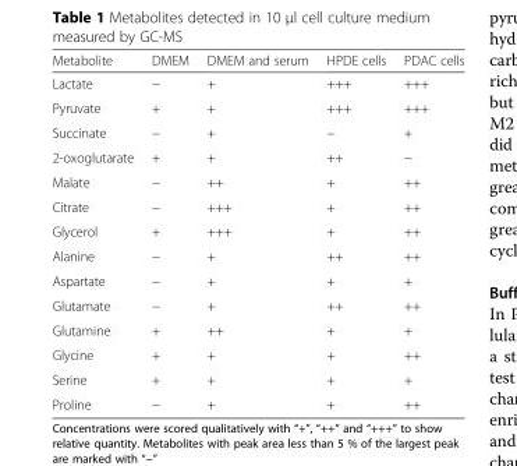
<table><thead><tr><td>Metabolite</td><td>DMEM</td><td>DMEM and serum</td><td>HPDE cells</td><td>PDAC cells</td></tr></thead><tbody><tr><td>Lactate</td><td>−</td><td>+</td><td>+++</td><td>+++</td></tr><tr><td>Pyruvate</td><td>+</td><td>+</td><td>+++</td><td>+++</td></tr><tr><td>Succinate</td><td>−</td><td>+</td><td>−</td><td>+</td></tr><tr><td>2-oxoglutarate</td><td>+</td><td>+</td><td>++</td><td>−</td></tr><tr><td>Malate</td><td>−</td><td>++</td><td>+</td><td>++</td></tr><tr><td>Citrate</td><td>−</td><td>+++</td><td>+</td><td>++</td></tr><tr><td>Glycerol</td><td>+</td><td>+++</td><td>+</td><td>++</td></tr><tr><td>Alanine</td><td>−</td><td>+</td><td>++</td><td>++</td></tr><tr><td>Aspartate</td><td>−</td><td>+</td><td>+</td><td>+</td></tr><tr><td>Glutamate</td><td>−</td><td>+</td><td>++</td><td>++</td></tr><tr><td>Glutamine</td><td>+</td><td>++</td><td>+</td><td>+</td></tr><tr><td>Glycine</td><td>+</td><td>+</td><td>+</td><td>++</td></tr><tr><td>Serine</td><td>+</td><td>+</td><td>+</td><td>+</td></tr><tr><td>Proline</td><td>−</td><td>+</td><td>+</td><td>++</td></tr></tbody></table>